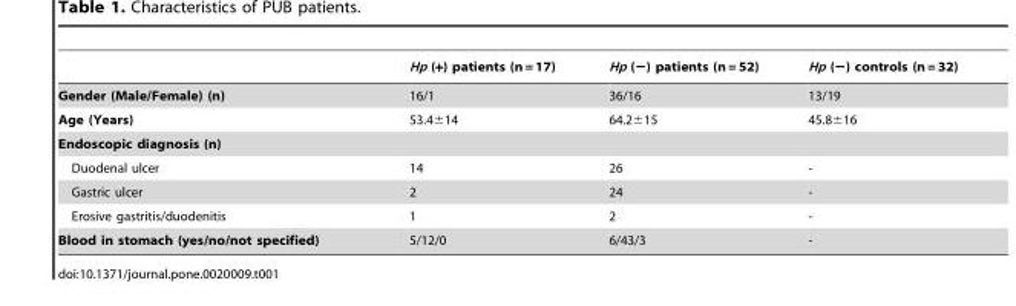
<table><thead><tr><td></td><td>Hp (+) patients (n = 17)</td><td>Hp (−) patients (n = 52)</td><td>Hp (−) controls (n = 32)</td></tr></thead><tbody><tr><td>Gender (Male/Female) (n)</td><td>16/1</td><td>36/16</td><td>13/19</td></tr><tr><td>Age (Years)</td><td>53.4±14</td><td>64.2±15</td><td>45.8±16</td></tr><tr><td colspan="4">Endoscopic diagnosis (n)</td></tr><tr><td>Duodenal ulcer</td><td>14</td><td>26</td><td>-</td></tr><tr><td>Gastric ulcer</td><td>2</td><td>24</td><td>-</td></tr><tr><td>Erosive gastritis/duodenitis</td><td>1</td><td>2</td><td>-</td></tr><tr><td>Blood in stomach (yes/no/not specified)</td><td>5/12/0</td><td>6/43/3</td><td>-</td></tr></tbody></table>